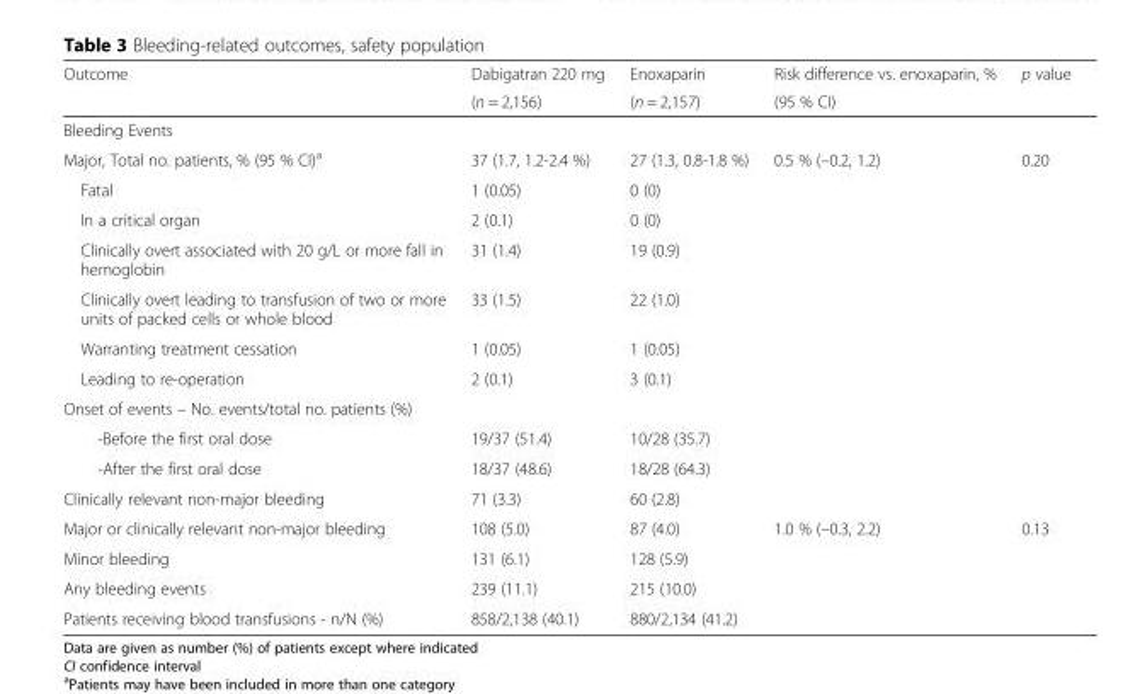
<table><thead><tr><td rowspan="2">Outcome</td><td rowspan="2">Dabigatran 220 mg (n = 2,156)</td><td rowspan="2">Enoxaparin (n = 2,157)</td><td rowspan="2">Risk difference vs. enoxaparin, % (95 % CI)</td><td rowspan="2">p value</td></tr><tr></tr></thead><tbody><tr><td colspan="5">Bleeding Events</td></tr><tr><td>Major, Total no. patients, % (95 % CI)<sup>a</sup></td><td>37 (1.7, 1.2-2.4 %)</td><td>27 (1.3, 0.8-1.8 %)</td><td>0.5 % (–0.2, 1.2)</td><td>0.20</td></tr><tr><td>Fatal</td><td>1 (0.05)</td><td>0 (0)</td><td></td><td></td></tr><tr><td>In a critical organ</td><td>2 (0.1)</td><td>0 (0)</td><td></td><td></td></tr><tr><td>Clinically overt associated with 20 g/L or more fall in hemoglobin</td><td>31 (1.4)</td><td>19 (0.9)</td><td></td><td></td></tr><tr><td>Clinically overt leading to transfusion of two or more units of packed cells or whole blood</td><td>33 (1.5)</td><td>22 (1.0)</td><td></td><td></td></tr><tr><td>Warranting treatment cessation</td><td>1 (0.05)</td><td>1 (0.05)</td><td></td><td></td></tr><tr><td>Leading to re-operation</td><td>2 (0.1)</td><td>3 (0.1)</td><td></td><td></td></tr><tr><td colspan="5">Onset of events – No. events/total no. patients (%)</td></tr><tr><td>-Before the first oral dose</td><td>19/37 (51.4)</td><td>10/28 (35.7)</td><td></td><td></td></tr><tr><td>-After the first oral dose</td><td>18/37 (48.6)</td><td>18/28 (64.3)</td><td></td><td></td></tr><tr><td>Clinically relevant non-major bleeding</td><td>71 (3.3)</td><td>60 (2.8)</td><td></td><td></td></tr><tr><td>Major or clinically relevant non-major bleeding</td><td>108 (5.0)</td><td>87 (4.0)</td><td>1.0 % (–0.3, 2.2)</td><td>0.13</td></tr><tr><td>Minor bleeding</td><td>131 (6.1)</td><td>128 (5.9)</td><td></td><td></td></tr><tr><td>Any bleeding events</td><td>239 (11.1)</td><td>215 (10.0)</td><td></td><td></td></tr><tr><td>Patients receiving blood transfusions - n/N (%)</td><td>858/2,138 (40.1)</td><td>880/2,134 (41.2)</td><td></td><td></td></tr></tbody></table>